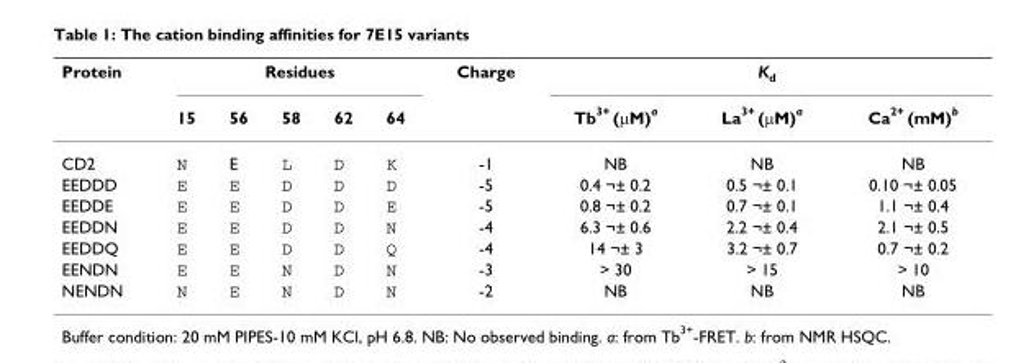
<table><thead><tr><td rowspan="2">Protein</td><td colspan="5">Residues</td><td rowspan="2">Charge</td><td colspan="3">K<sub>d</sub></td></tr><tr><td>15</td><td>56</td><td>58</td><td>62</td><td>64</td><td>Tb<sup>3+</sup> (μM)<sup>a</sup></td><td>La<sup>3+</sup> (μM)<sup>a</sup></td><td>Ca<sup>2+</sup> (mM)<sup>b</sup></td></tr></thead><tbody><tr><td>CD2</td><td>N</td><td>E</td><td>L</td><td>D</td><td>K</td><td>-1</td><td>NB</td><td>NB</td><td>NB</td></tr><tr><td>EEDDD</td><td>E</td><td>E</td><td>D</td><td>D</td><td>D</td><td>-5</td><td>0.4 ¬± 0.2</td><td>0.5 ¬± 0.1</td><td>0.10 ¬± 0.05</td></tr><tr><td>EEDDE</td><td>E</td><td>E</td><td>D</td><td>D</td><td>E</td><td>-5</td><td>0.8 ¬± 0.2</td><td>0.7 ¬± 0.1</td><td>1.1 ¬± 0.4</td></tr><tr><td>EEDDN</td><td>E</td><td>E</td><td>D</td><td>D</td><td>N</td><td>-4</td><td>6.3 ¬± 0.6</td><td>2.2 ¬± 0.4</td><td>2.1 ¬± 0.5</td></tr><tr><td>EEDDQ</td><td>E</td><td>E</td><td>D</td><td>D</td><td>Q</td><td>-4</td><td>14 ¬± 3</td><td>3.2 ¬± 0.7</td><td>0.7 ¬± 0.2</td></tr><tr><td>EENDN</td><td>E</td><td>E</td><td>N</td><td>D</td><td>N</td><td>-3</td><td>&gt; 30</td><td>&gt; 15</td><td>&gt; 10</td></tr><tr><td>NENDN</td><td>N</td><td>E</td><td>N</td><td>D</td><td>N</td><td>-2</td><td>NB</td><td>NB</td><td>NB</td></tr></tbody></table>